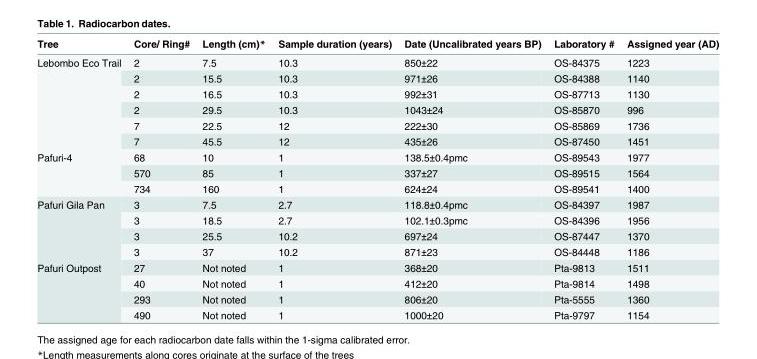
<table><thead><tr><td>Tree</td><td>Core/ Ring#</td><td>Length (cm)*</td><td>Sample duration (years)</td><td>Date (Uncalibrated years BP)</td><td>Laboratory #</td><td>Assigned year (AD)</td></tr></thead><tbody><tr><td rowspan="6">Lebombo Eco Trail</td><td>2</td><td>7.5</td><td>10.3</td><td>850±22</td><td>OS-84375</td><td>1223</td></tr><tr><td>2</td><td>15.5</td><td>10.3</td><td>971±26</td><td>OS-84388</td><td>1140</td></tr><tr><td>2</td><td>16.5</td><td>10.3</td><td>992±31</td><td>OS-87713</td><td>1130</td></tr><tr><td>2</td><td>29.5</td><td>10.3</td><td>1043±24</td><td>OS-85870</td><td>996</td></tr><tr><td>7</td><td>22.5</td><td>12</td><td>222±30</td><td>OS-85869</td><td>1736</td></tr><tr><td>7</td><td>45.5</td><td>12</td><td>435±26</td><td>OS-87450</td><td>1451</td></tr><tr><td rowspan="3">Pafuri-4</td><td>68</td><td>10</td><td>1</td><td>138.5±0.4pmc</td><td>OS-89543</td><td>1977</td></tr><tr><td>570</td><td>85</td><td>1</td><td>337±27</td><td>OS-89515</td><td>1564</td></tr><tr><td>734</td><td>160</td><td>1</td><td>624±24</td><td>OS-89541</td><td>1400</td></tr><tr><td rowspan="4">Pafuri Gila Pan</td><td>3</td><td>7.5</td><td>2.7</td><td>118.8±0.4pmc</td><td>OS-84397</td><td>1987</td></tr><tr><td>3</td><td>18.5</td><td>2.7</td><td>102.1±0.3pmc</td><td>OS-84396</td><td>1956</td></tr><tr><td>3</td><td>25.5</td><td>10.2</td><td>697±24</td><td>OS-87447</td><td>1370</td></tr><tr><td>3</td><td>37</td><td>10.2</td><td>871±23</td><td>OS-84448</td><td>1186</td></tr><tr><td rowspan="4">Pafuri Outpost</td><td>27</td><td>Not noted</td><td>1</td><td>368±20</td><td>Pta-9813</td><td>1511</td></tr><tr><td>40</td><td>Not noted</td><td>1</td><td>412±20</td><td>Pta-9814</td><td>1498</td></tr><tr><td>293</td><td>Not noted</td><td>1</td><td>806±20</td><td>Pta-5555</td><td>1360</td></tr><tr><td>490</td><td>Not noted</td><td>1</td><td>1000±20</td><td>Pta-9797</td><td>1154</td></tr></tbody></table>